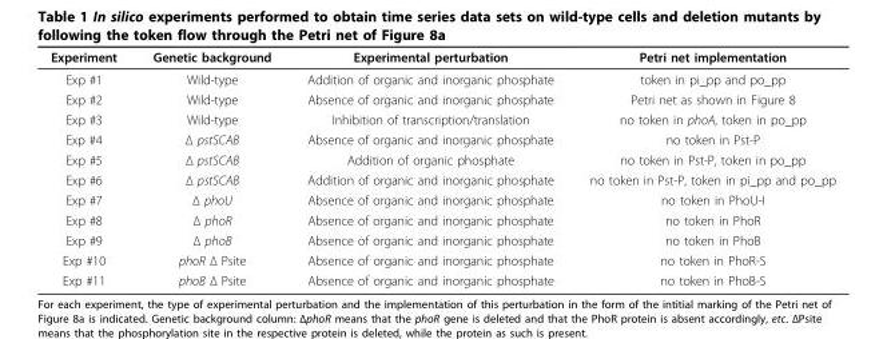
<table><thead><tr><td>Experiment</td><td>Genetic background</td><td>Experimental perturbation</td><td>Petri net implementation</td></tr></thead><tbody><tr><td>Exp #1</td><td>Wild-type</td><td>Addition of organic and inorganic phosphate</td><td>token in pi_pp and po_pp</td></tr><tr><td>Exp #2</td><td>Wild-type</td><td>Absence of organic and inorganic phosphate</td><td>Petri net as shown in Figure 8</td></tr><tr><td>Exp #3</td><td>Wild-type</td><td>Inhibition of transcription/translation</td><td>no token in phoA, token in po_pp</td></tr><tr><td>Exp #4</td><td>Δ pstSCAB</td><td>Absence of organic and inorganic phosphate</td><td>no token in Pst-P</td></tr><tr><td>Exp #5</td><td>Δ pstSCAB</td><td>Addition of organic phosphate</td><td>no token in Pst-P, token in po_pp</td></tr><tr><td>Exp #6</td><td>Δ pstSCAB</td><td>Addition of organic and inorganic phosphate</td><td>no token in Pst-P, token in pi_pp and po_pp</td></tr><tr><td>Exp #7</td><td>Δ phoU</td><td>Absence of organic and inorganic phosphate</td><td>no token in PhoU-I</td></tr><tr><td>Exp #8</td><td>Δ phoR</td><td>Absence of organic and inorganic phosphate</td><td>no token in PhoR</td></tr><tr><td>Exp #9</td><td>Δ phoB</td><td>Absence of organic and inorganic phosphate</td><td>no token in PhoB</td></tr><tr><td>Exp #10</td><td>phoR Δ Psite</td><td>Absence of organic and inorganic phosphate</td><td>no token in PhoR-S</td></tr><tr><td>Exp #11</td><td>phoB Δ Psite</td><td>Absence of organic and inorganic phosphate</td><td>no token in PhoB-S</td></tr></tbody></table>